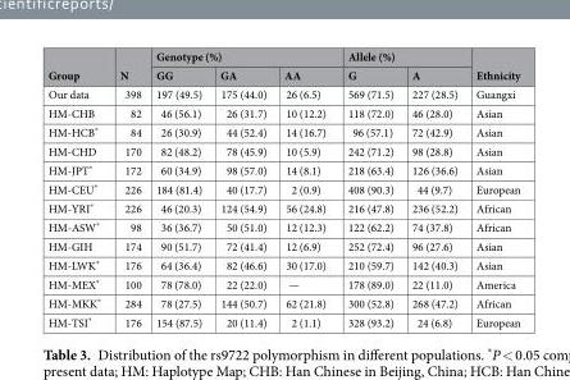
<table><thead><tr><td rowspan="2">Group</td><td rowspan="2">N</td><td colspan="3">Genotype (%)</td><td colspan="2">Allele (%)</td><td rowspan="2">Ethnicity</td></tr><tr><td>GG</td><td>GA</td><td>AA</td><td>G</td><td>A</td></tr></thead><tbody><tr><td>Our data</td><td>398</td><td>197 (49.5)</td><td>175 (44.0)</td><td>26 (6.5)</td><td>569 (71.5)</td><td>227 (28.5)</td><td>Guangxi</td></tr><tr><td>HM-CHB</td><td>82</td><td>46 (56.1)</td><td>26 (31.7)</td><td>10 (12.2)</td><td>118 (72.0)</td><td>46 (28.0)</td><td>Asian</td></tr><tr><td>HM-HCB*</td><td>84</td><td>26 (30.9)</td><td>44 (52.4)</td><td>14 (16.7)</td><td>96 (57.1)</td><td>72 (42.9)</td><td>Asian</td></tr><tr><td>HM-CHD</td><td>170</td><td>82 (48.2)</td><td>78 (45.9)</td><td>10 (5.9)</td><td>242 (71.2)</td><td>98 (28.8)</td><td>Asian</td></tr><tr><td>HM-JPT*</td><td>172</td><td>60 (34.9)</td><td>98 (57.0)</td><td>14 (8.1)</td><td>218 (63.4)</td><td>126 (36.6)</td><td>Asian</td></tr><tr><td>HM-CEU*</td><td>226</td><td>184 (81.4)</td><td>40 (17.7)</td><td>2 (0.9)</td><td>408 (90.3)</td><td>44 (9.7)</td><td>European</td></tr><tr><td>HM-YRI*</td><td>226</td><td>46 (20.3)</td><td>124 (54.9)</td><td>56 (24.8)</td><td>216 (47.8)</td><td>236 (52.2)</td><td>African</td></tr><tr><td>HM-ASW*</td><td>98</td><td>36 (36.7)</td><td>50 (51.0)</td><td>12 (12.3)</td><td>122 (62.2)</td><td>74 (37.8)</td><td>African</td></tr><tr><td>HM-GIH</td><td>174</td><td>90 (51.7)</td><td>72 (41.4)</td><td>12 (6.9)</td><td>252 (72.4)</td><td>96 (27.6)</td><td>Asian</td></tr><tr><td>HM-LWK*</td><td>176</td><td>64 (36.4)</td><td>82 (46.6)</td><td>30 (17.0)</td><td>210 (59.7)</td><td>142 (40.3)</td><td>Asian</td></tr><tr><td>HM-MEX*</td><td>100</td><td>78 (78.0)</td><td>22 (22.0)</td><td>—</td><td>178 (89.0)</td><td>22 (11.0)</td><td>America</td></tr><tr><td>HM-MKK*</td><td>284</td><td>78 (27.5)</td><td>144 (50.7)</td><td>62 (21.8)</td><td>300 (52.8)</td><td>268 (47.2)</td><td>African</td></tr><tr><td>HM-TSI*</td><td>176</td><td>154 (87.5)</td><td>20 (11.4)</td><td>2 (1.1)</td><td>328 (93.2)</td><td>24 (6.8)</td><td>European</td></tr></tbody></table>